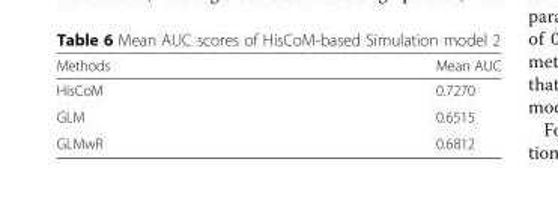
<table><thead><tr><td>Methods</td><td>Mean AUC</td></tr></thead><tbody><tr><td>HisCoM</td><td>0.7270</td></tr><tr><td>GLM</td><td>0.6515</td></tr><tr><td>GLMwR</td><td>0.6812</td></tr></tbody></table>